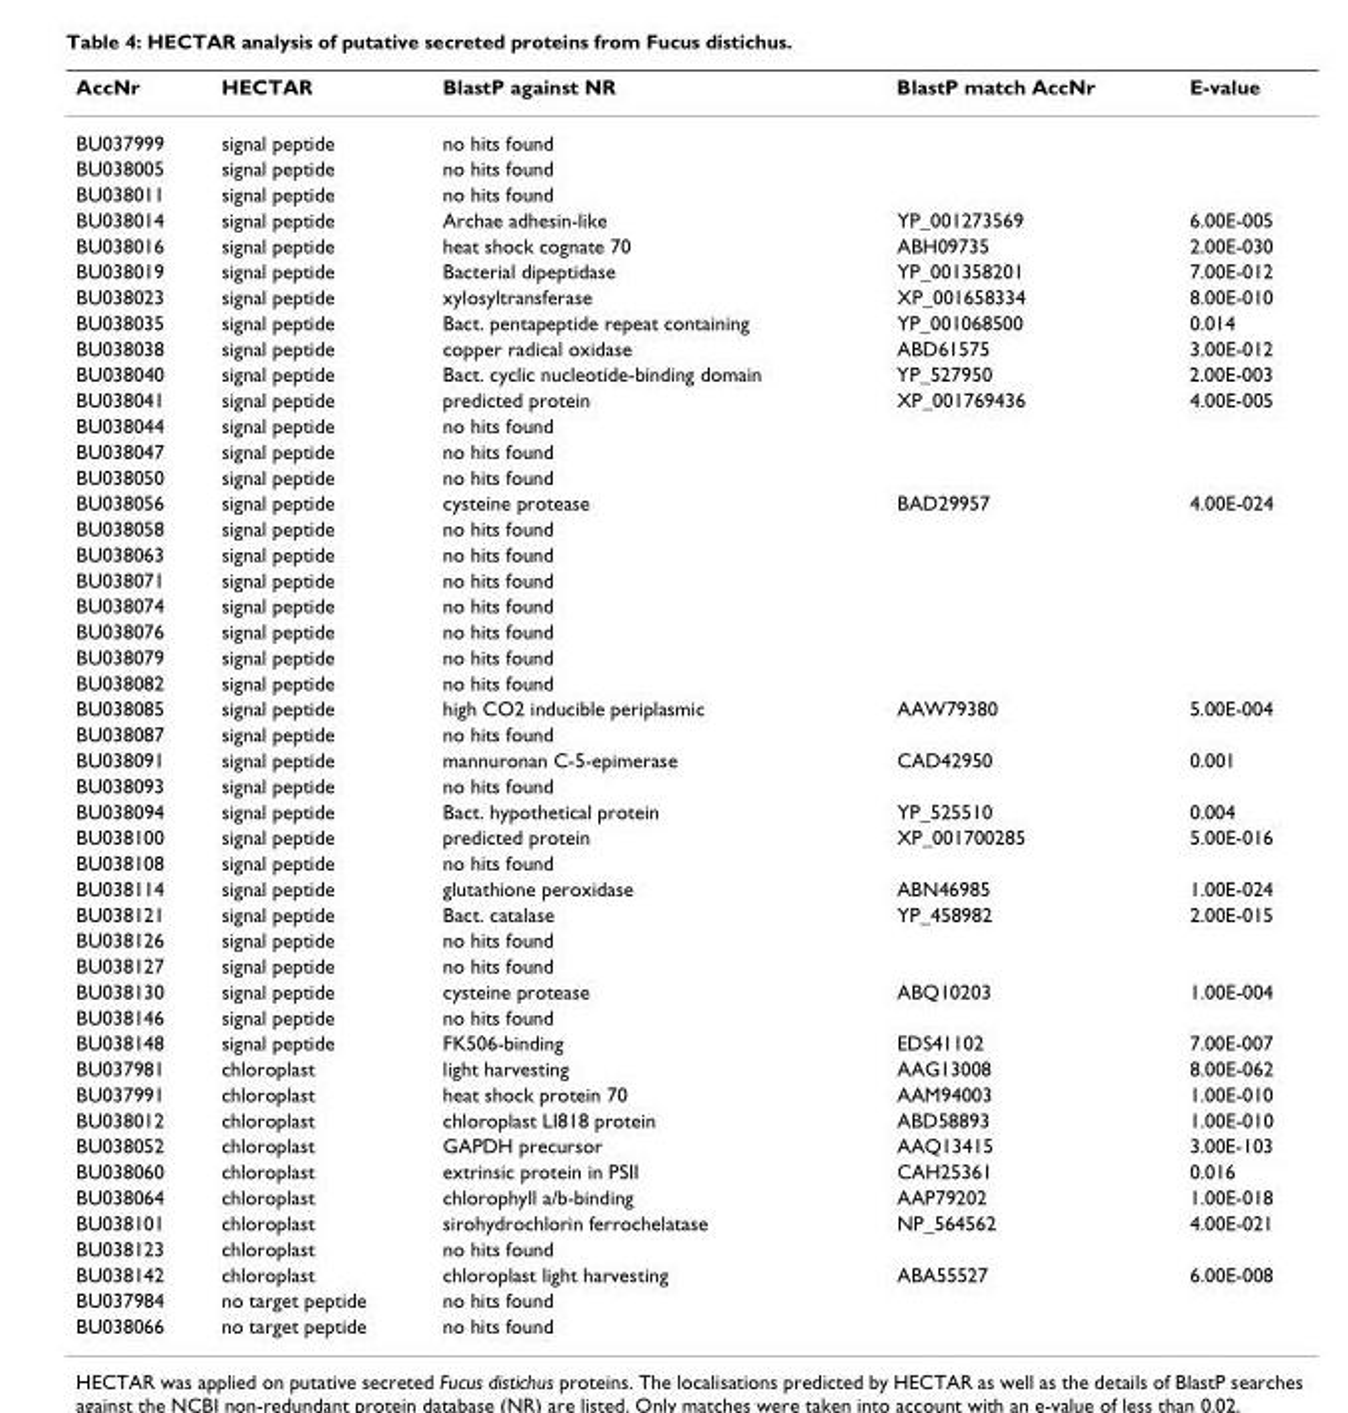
<table><thead><tr><td>AccNr</td><td>HECTAR</td><td>BlastP against NR</td><td>BlastP match AccNr</td><td>E-value</td></tr></thead><tbody><tr><td>BU037999</td><td>signal peptide</td><td>no hits found</td><td></td><td></td></tr><tr><td>BU038005</td><td>signal peptide</td><td>no hits found</td><td></td><td></td></tr><tr><td>BU038011</td><td>signal peptide</td><td>no hits found</td><td></td><td></td></tr><tr><td>BU038014</td><td>signal peptide</td><td>Archae adhesin-like</td><td>YP_001273569</td><td>6.00E-005</td></tr><tr><td>BU038016</td><td>signal peptide</td><td>heat shock cognate 70</td><td>ABH09735</td><td>2.00E-030</td></tr><tr><td>BU038019</td><td>signal peptide</td><td>Bacterial dipeptidase</td><td>YP_001358201</td><td>7.00E-012</td></tr><tr><td>BU038023</td><td>signal peptide</td><td>xylosyltransferase</td><td>XP_001658334</td><td>8.00E-010</td></tr><tr><td>BU038035</td><td>signal peptide</td><td>Bact. pentapeptide repeat containing</td><td>YP_001068500</td><td>0.014</td></tr><tr><td>BU038038</td><td>signal peptide</td><td>copper radical oxidase</td><td>ABD61575</td><td>3.00E-012</td></tr><tr><td>BU038040</td><td>signal peptide</td><td>Bact. cyclic nucleotide-binding domain</td><td>YP_527950</td><td>2.00E-003</td></tr><tr><td>BU038041</td><td>signal peptide</td><td>predicted protein</td><td>XP_001769436</td><td>4.00E-005</td></tr><tr><td>BU038044</td><td>signal peptide</td><td>no hits found</td><td></td><td></td></tr><tr><td>BU038047</td><td>signal peptide</td><td>no hits found</td><td></td><td></td></tr><tr><td>BU038050</td><td>signal peptide</td><td>no hits found</td><td></td><td></td></tr><tr><td>BU038056</td><td>signal peptide</td><td>cysteine protease</td><td>BAD29957</td><td>4.00E-024</td></tr><tr><td>BU038058</td><td>signal peptide</td><td>no hits found</td><td></td><td></td></tr><tr><td>BU038063</td><td>signal peptide</td><td>no hits found</td><td></td><td></td></tr><tr><td>BU038071</td><td>signal peptide</td><td>no hits found</td><td></td><td></td></tr><tr><td>BU038074</td><td>signal peptide</td><td>no hits found</td><td></td><td></td></tr><tr><td>BU038076</td><td>signal peptide</td><td>no hits found</td><td></td><td></td></tr><tr><td>BU038079</td><td>signal peptide</td><td>no hits found</td><td></td><td></td></tr><tr><td>BU038082</td><td>signal peptide</td><td>no hits found</td><td></td><td></td></tr><tr><td>BU038085</td><td>signal peptide</td><td>high CO2 inducible periplasmic</td><td>AAW79380</td><td>5.00E-004</td></tr><tr><td>BU038087</td><td>signal peptide</td><td>no hits found</td><td></td><td></td></tr><tr><td>BU038091</td><td>signal peptide</td><td>mannuronan C-5-epimerase</td><td>CAD42950</td><td>0.001</td></tr><tr><td>BU038093</td><td>signal peptide</td><td>no hits found</td><td></td><td></td></tr><tr><td>BU038094</td><td>signal peptide</td><td>Bact. hypothetical protein</td><td>YP_525510</td><td>0.004</td></tr><tr><td>BU038100</td><td>signal peptide</td><td>predicted protein</td><td>XP_001700285</td><td>5.00E-016</td></tr><tr><td>BU038108</td><td>signal peptide</td><td>no hits found</td><td></td><td></td></tr><tr><td>BU038114</td><td>signal peptide</td><td>glutathione peroxidase</td><td>ABN46985</td><td>1.00E-024</td></tr><tr><td>BU038121</td><td>signal peptide</td><td>Bact. catalase</td><td>YP_458982</td><td>2.00E-015</td></tr><tr><td>BU038126</td><td>signal peptide</td><td>no hits found</td><td></td><td></td></tr><tr><td>BU038127</td><td>signal peptide</td><td>no hits found</td><td></td><td></td></tr><tr><td>BU038130</td><td>signal peptide</td><td>cysteine protease</td><td>ABQ10203</td><td>1.00E-004</td></tr><tr><td>BU038146</td><td>signal peptide</td><td>no hits found</td><td></td><td></td></tr><tr><td>BU038148</td><td>signal peptide</td><td>FK506-binding</td><td>EDS41102</td><td>7.00E-007</td></tr><tr><td>BU037981</td><td>chloroplast</td><td>light harvesting</td><td>AAG13008</td><td>8.00E-062</td></tr><tr><td>BU037991</td><td>chloroplast</td><td>heat shock protein 70</td><td>AAM94003</td><td>1.00E-010</td></tr><tr><td>BU038012</td><td>chloroplast</td><td>chloroplast LI818 protein</td><td>ABD58893</td><td>1.00E-010</td></tr><tr><td>BU038052</td><td>chloroplast</td><td>GAPDH precursor</td><td>AAQ13415</td><td>3.00E-103</td></tr><tr><td>BU038060</td><td>chloroplast</td><td>extrinsic protein in PSII</td><td>CAH25361</td><td>0.016</td></tr><tr><td>BU038064</td><td>chloroplast</td><td>chlorophyll a/b-binding</td><td>AAP79202</td><td>1.00E-018</td></tr><tr><td>BU038101</td><td>chloroplast</td><td>sirohydrochlorin ferrochelatase</td><td>NP_564562</td><td>4.00E-021</td></tr><tr><td>BU038123</td><td>chloroplast</td><td>no hits found</td><td></td><td></td></tr><tr><td>BU038142</td><td>chloroplast</td><td>chloroplast light harvesting</td><td>ABA55527</td><td>6.00E-008</td></tr><tr><td>BU037984</td><td>no target peptide</td><td>no hits found</td><td></td><td></td></tr><tr><td>BU038066</td><td>no target peptide</td><td>no hits found</td><td></td><td></td></tr></tbody></table>